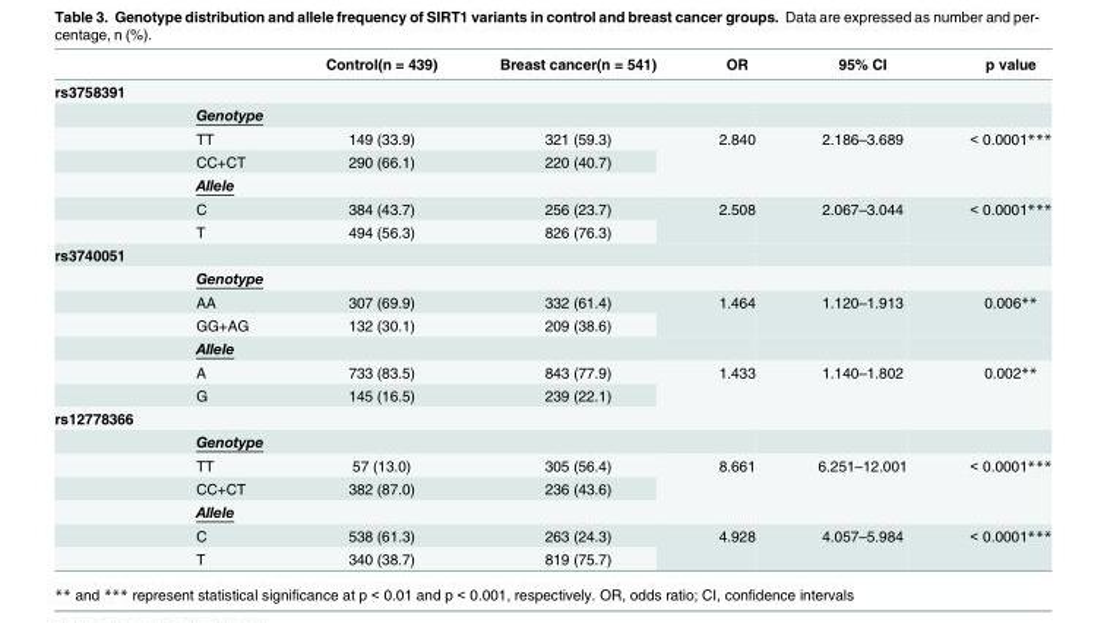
<table><thead><tr><td></td><td></td><td>Control(n = 439)</td><td>Breast cancer(n = 541)</td><td>OR</td><td>95% CI</td><td>p value</td></tr></thead><tbody><tr><td colspan="7">rs3758391</td></tr><tr><td></td><td>Genotype</td><td></td><td></td><td></td><td></td><td></td></tr><tr><td></td><td>TT</td><td>149 (33.9)</td><td>321 (59.3)</td><td rowspan="2">2.840</td><td rowspan="2">2.186–3.689</td><td rowspan="2">&lt; 0.0001***</td></tr><tr><td></td><td>CC+CT</td><td>290 (66.1)</td><td>220 (40.7)</td></tr><tr><td></td><td>Allele</td><td></td><td></td><td></td><td></td><td></td></tr><tr><td></td><td>C</td><td>384 (43.7)</td><td>256 (23.7)</td><td rowspan="2">2.508</td><td rowspan="2">2.067–3.044</td><td rowspan="2">&lt; 0.0001***</td></tr><tr><td></td><td>T</td><td>494 (56.3)</td><td>826 (76.3)</td></tr><tr><td colspan="7">rs3740051</td></tr><tr><td></td><td>Genotype</td><td></td><td></td><td></td><td></td><td></td></tr><tr><td></td><td>AA</td><td>307 (69.9)</td><td>332 (61.4)</td><td rowspan="2">1.464</td><td rowspan="2">1.120–1.913</td><td rowspan="2">0.006**</td></tr><tr><td></td><td>GG+AG</td><td>132 (30.1)</td><td>209 (38.6)</td></tr><tr><td></td><td>Allele</td><td></td><td></td><td></td><td></td><td></td></tr><tr><td></td><td>A</td><td>733 (83.5)</td><td>843 (77.9)</td><td rowspan="2">1.433</td><td rowspan="2">1.140–1.802</td><td rowspan="2">0.002**</td></tr><tr><td></td><td>G</td><td>145 (16.5)</td><td>239 (22.1)</td></tr><tr><td colspan="7">rs12778366</td></tr><tr><td></td><td>Genotype</td><td></td><td></td><td></td><td></td><td></td></tr><tr><td></td><td>TT</td><td>57 (13.0)</td><td>305 (56.4)</td><td rowspan="2">8.661</td><td rowspan="2">6.251–12.001</td><td rowspan="2">&lt; 0.0001***</td></tr><tr><td></td><td>CC+CT</td><td>382 (87.0)</td><td>236 (43.6)</td></tr><tr><td></td><td>Allele</td><td></td><td></td><td></td><td></td><td></td></tr><tr><td></td><td>C</td><td>538 (61.3)</td><td>263 (24.3)</td><td rowspan="2">4.928</td><td rowspan="2">4.057–5.984</td><td rowspan="2">&lt; 0.0001***</td></tr><tr><td></td><td>T</td><td>340 (38.7)</td><td>819 (75.7)</td></tr></tbody></table>